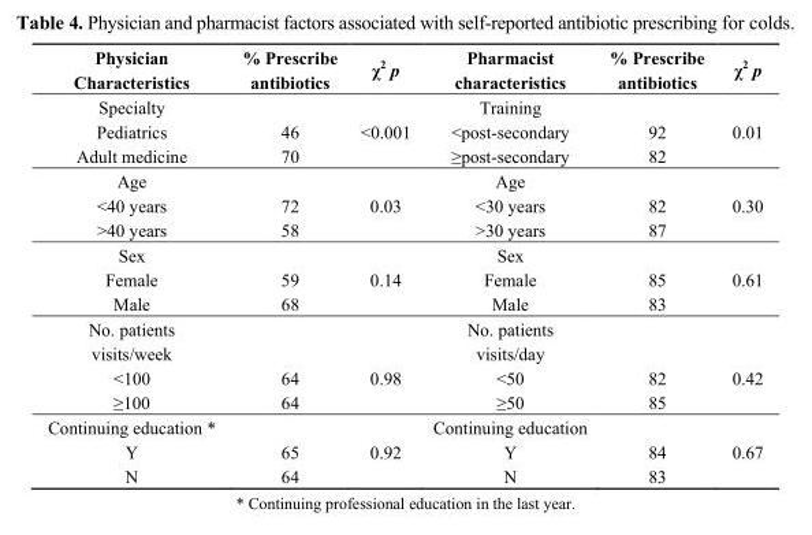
<table><thead><tr><td>Physician Characteristics</td><td>% Prescribe antibiotics</td><td>χ<sup>2</sup> p</td><td>Pharmacist characteristics</td><td>% Prescribe antibiotics</td><td>χ<sup>2</sup> p</td></tr></thead><tbody><tr><td>Specialty</td><td></td><td></td><td>Training</td><td></td><td></td></tr><tr><td>Pediatrics</td><td>46</td><td>&lt;0.001</td><td>&lt;post-secondary</td><td>92</td><td>0.01</td></tr><tr><td>Adult medicine</td><td>70</td><td></td><td>≥post-secondary</td><td>82</td><td></td></tr><tr><td>Age</td><td></td><td></td><td>Age</td><td></td><td></td></tr><tr><td>&lt;40 years</td><td>72</td><td>0.03</td><td>&lt;30 years</td><td>82</td><td>0.30</td></tr><tr><td>&gt;40 years</td><td>58</td><td></td><td>&gt;30 years</td><td>87</td><td></td></tr><tr><td>Sex</td><td></td><td></td><td>Sex</td><td></td><td></td></tr><tr><td>Female</td><td>59</td><td>0.14</td><td>Female</td><td>85</td><td>0.61</td></tr><tr><td>Male</td><td>68</td><td></td><td>Male</td><td>83</td><td></td></tr><tr><td>No. patients visits/week</td><td></td><td></td><td>No. patients visits/day</td><td></td><td></td></tr><tr><td>&lt;100</td><td>64</td><td>0.98</td><td>&lt;50</td><td>82</td><td>0.42</td></tr><tr><td>≥100</td><td>64</td><td></td><td>≥50</td><td>85</td><td></td></tr><tr><td>Continuing education *</td><td></td><td></td><td>Continuing education</td><td></td><td></td></tr><tr><td>Y</td><td>65</td><td>0.92</td><td>Y</td><td>84</td><td>0.67</td></tr><tr><td>N</td><td>64</td><td></td><td>N</td><td>83</td><td></td></tr></tbody></table>